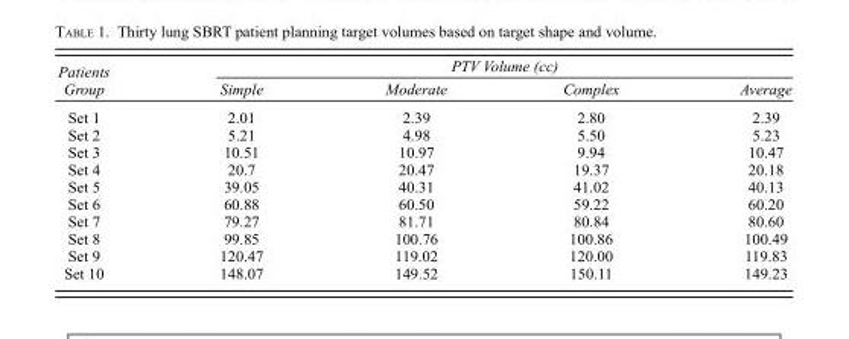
<table><thead><tr><td rowspan="2">Patients Group</td><td colspan="4">PTV Volume (cc)</td></tr><tr><td>Simple</td><td>Moderate</td><td>Complex</td><td>Average</td></tr></thead><tbody><tr><td>Set 1</td><td>2.01</td><td>2.39</td><td>2.80</td><td>2.39</td></tr><tr><td>Set 2</td><td>5.21</td><td>4.98</td><td>5.50</td><td>5.23</td></tr><tr><td>Set 3</td><td>10.51</td><td>10.97</td><td>9.94</td><td>10.47</td></tr><tr><td>Set 4</td><td>20.7</td><td>20.47</td><td>19.37</td><td>20.18</td></tr><tr><td>Set 5</td><td>39.05</td><td>40.31</td><td>41.02</td><td>40.13</td></tr><tr><td>Set 6</td><td>60.88</td><td>60.50</td><td>59.22</td><td>60.20</td></tr><tr><td>Set 7</td><td>79.27</td><td>81.71</td><td>80.84</td><td>80.60</td></tr><tr><td>Set 8</td><td>99.85</td><td>100.76</td><td>100.86</td><td>100.49</td></tr><tr><td>Set 9</td><td>120.47</td><td>119.02</td><td>120.00</td><td>119.83</td></tr><tr><td>Set 10</td><td>148.07</td><td>149.52</td><td>150.11</td><td>149.23</td></tr></tbody></table>